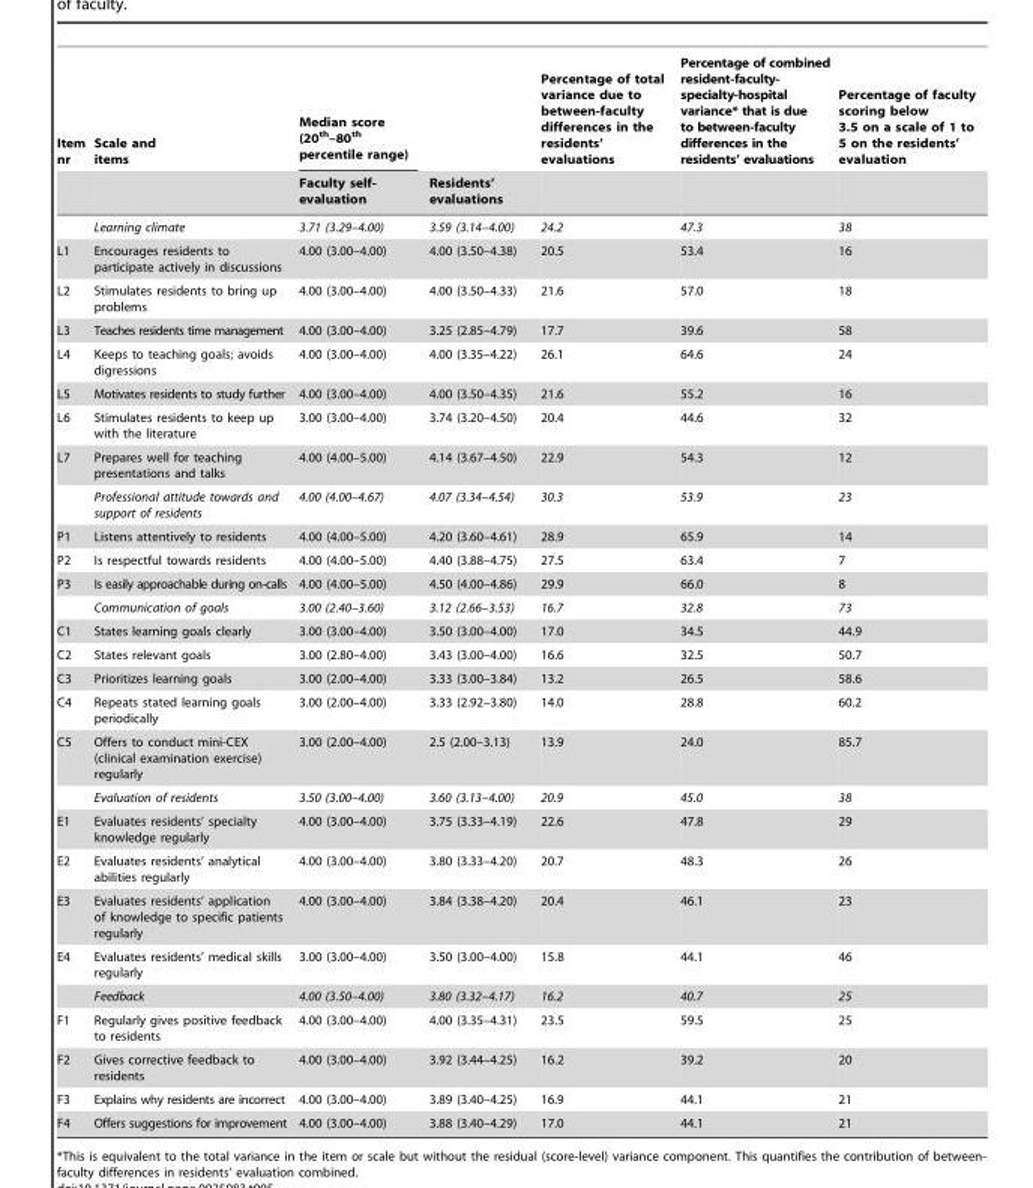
<table><thead><tr><td rowspan="2">Item nr</td><td rowspan="2">Scale and items</td><td rowspan="2">Median score (20<sup>th</sup>–80<sup>th</sup> percentile range) Faculty self- evaluation</td><td rowspan="2">Residents’ evaluations</td><td rowspan="2">Percentage of total variance due to between-faculty differences in the residents’ evaluations</td><td rowspan="2">Percentage of combined resident-faculty- specialty-hospital variance* that is due to between-faculty differences in the residents’ evaluations</td><td rowspan="2">Percentage of faculty scoring below 3.5 on a scale of 1 to 5 on the residents’ evaluation</td></tr><tr></tr></thead><tbody><tr><td></td><td>Learning climate</td><td>3.71 (3.29–4.00)</td><td>3.59 (3.14–4.00)</td><td>24.2</td><td>47.3</td><td>38</td></tr><tr><td>L1</td><td>Encourages residents to participate actively in discussions</td><td>4.00 (3.00–4.00)</td><td>4.00 (3.50–4.38)</td><td>20.5</td><td>53.4</td><td>16</td></tr><tr><td>L2</td><td>Stimulates residents to bring up problems</td><td>4.00 (3.00–4.00)</td><td>4.00 (3.50–4.33)</td><td>21.6</td><td>57.0</td><td>18</td></tr><tr><td>L3</td><td>Teaches residents time management</td><td>4.00 (3.00–4.00)</td><td>3.25 (2.85–4.79)</td><td>17.7</td><td>39.6</td><td>58</td></tr><tr><td>L4</td><td>Keeps to teaching goals; avoids digressions</td><td>4.00 (3.00–4.00)</td><td>4.00 (3.35–4.22)</td><td>26.1</td><td>64.6</td><td>24</td></tr><tr><td>L5</td><td>Motivates residents to study further</td><td>4.00 (3.00–4.00)</td><td>4.00 (3.50–4.35)</td><td>21.6</td><td>55.2</td><td>16</td></tr><tr><td>L6</td><td>Stimulates residents to keep up with the literature</td><td>3.00 (3.00–4.00)</td><td>3.74 (3.20–4.50)</td><td>20.4</td><td>44.6</td><td>32</td></tr><tr><td rowspan="2">L7</td><td>Prepares well for teaching presentations and talks</td><td>4.00 (4.00–5.00)</td><td>4.14 (3.67–4.50)</td><td>22.9</td><td>54.3</td><td>12</td></tr><tr><td>Professional attitude towards and support of residents</td><td>4.00 (4.00–4.67)</td><td>4.07 (3.34–4.54)</td><td>30.3</td><td>53.9</td><td>23</td></tr><tr><td>P1</td><td>Listens attentively to residents</td><td>4.00 (4.00–5.00)</td><td>4.20 (3.60–4.61)</td><td>28.9</td><td>65.9</td><td>14</td></tr><tr><td>P2</td><td>Is respectful towards residents</td><td>4.00 (4.00–5.00)</td><td>4.40 (3.88–4.75)</td><td>27.5</td><td>63.4</td><td>7</td></tr><tr><td rowspan="2">P3</td><td>Is easily approachable during on-calls</td><td>4.00 (4.00–5.00)</td><td>4.50 (4.00–4.86)</td><td>29.9</td><td>66.0</td><td>8</td></tr><tr><td>Communication of goals</td><td>3.00 (2.40–3.60)</td><td>3.12 (2.66–3.53)</td><td>16.7</td><td>32.8</td><td>73</td></tr><tr><td>C1</td><td>States learning goals clearly</td><td>3.00 (3.00–4.00)</td><td>3.50 (3.00–4.00)</td><td>17.0</td><td>34.5</td><td>44.9</td></tr><tr><td>C2</td><td>States relevant goals</td><td>3.00 (2.80–4.00)</td><td>3.43 (3.00–4.00)</td><td>16.6</td><td>32.5</td><td>50.7</td></tr><tr><td>C3</td><td>Prioritizes learning goals</td><td>3.00 (2.00–4.00)</td><td>3.33 (3.00–3.84)</td><td>13.2</td><td>26.5</td><td>58.6</td></tr><tr><td>C4</td><td>Repeats stated learning goals periodically</td><td>3.00 (2.00–4.00)</td><td>3.33 (2.92–3.80)</td><td>14.0</td><td>28.8</td><td>60.2</td></tr><tr><td rowspan="2">C5</td><td>Offers to conduct mini-CEX (clinical examination exercise) regularly</td><td>3.00 (2.00–4.00)</td><td>2.5 (2.00–3.13)</td><td>13.9</td><td>24.0</td><td>85.7</td></tr><tr><td>Evaluation of residents</td><td>3.50 (3.00–4.00)</td><td>3.60 (3.13–4.00)</td><td>20.9</td><td>45.0</td><td>38</td></tr><tr><td>E1</td><td>Evaluates residents’ specialty knowledge regularly</td><td>4.00 (3.00–4.00)</td><td>3.75 (3.33–4.19)</td><td>22.6</td><td>47.8</td><td>29</td></tr><tr><td>E2</td><td>Evaluates residents’ analytical abilities regularly</td><td>4.00 (3.00–4.00)</td><td>3.80 (3.33–4.20)</td><td>20.7</td><td>48.3</td><td>26</td></tr><tr><td>E3</td><td>Evaluates residents’ application of knowledge to specific patients regularly</td><td>4.00 (3.00–4.00)</td><td>3.84 (3.38–4.20)</td><td>20.4</td><td>46.1</td><td>23</td></tr><tr><td rowspan="2">E4</td><td>Evaluates residents’ medical skills regularly</td><td>3.00 (3.00–4.00)</td><td>3.50 (3.00–4.00)</td><td>15.8</td><td>44.1</td><td>46</td></tr><tr><td>Feedback</td><td>4.00 (3.50–4.00)</td><td>3.80 (3.32–4.17)</td><td>16.2</td><td>40.7</td><td>25</td></tr><tr><td>F1</td><td>Regularly gives positive feedback to residents</td><td>4.00 (3.00–4.00)</td><td>4.00 (3.35–4.31)</td><td>23.5</td><td>59.5</td><td>25</td></tr><tr><td>F2</td><td>Gives corrective feedback to residents</td><td>4.00 (3.00–4.00)</td><td>3.92 (3.44–4.25)</td><td>16.2</td><td>39.2</td><td>20</td></tr><tr><td>F3</td><td>Explains why residents are incorrect</td><td>4.00 (3.00–4.00)</td><td>3.89 (3.40–4.25)</td><td>16.9</td><td>44.1</td><td>21</td></tr><tr><td>F4</td><td>Offers suggestions for improvement</td><td>4.00 (3.00–4.00)</td><td>3.88 (3.40–4.29)</td><td>17.0</td><td>44.1</td><td>21</td></tr></tbody></table>